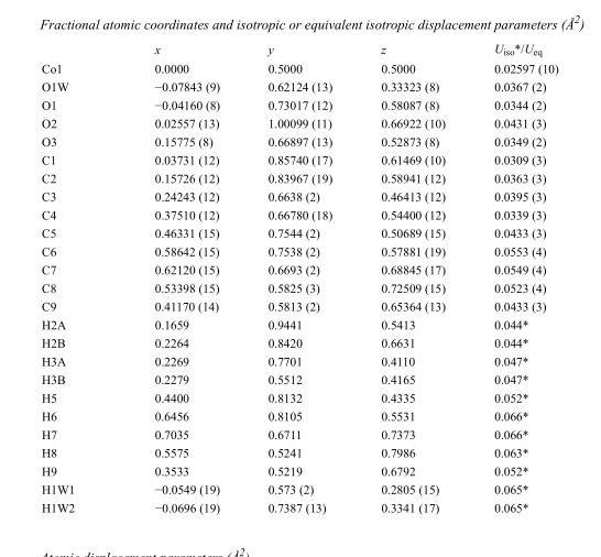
<table><thead><tr><td></td><td>x</td><td>y</td><td>z</td><td>U<sub>iso</sub>*/U<sub>eq</sub></td></tr></thead><tbody><tr><td>Co1</td><td>0.0000</td><td>0.5000</td><td>0.5000</td><td>0.02597 (10)</td></tr><tr><td>O1W</td><td>−0.07843 (9)</td><td>0.62124 (13)</td><td>0.33323 (8)</td><td>0.0367 (2)</td></tr><tr><td>O1</td><td>−0.04160 (8)</td><td>0.73017 (12)</td><td>0.58087 (8)</td><td>0.0344 (2)</td></tr><tr><td>O2</td><td>0.02557 (13)</td><td>1.00099 (11)</td><td>0.66922 (10)</td><td>0.0431 (3)</td></tr><tr><td>O3</td><td>0.15775 (8)</td><td>0.66897 (13)</td><td>0.52873 (8)</td><td>0.0349 (2)</td></tr><tr><td>C1</td><td>0.03731 (12)</td><td>0.85740 (17)</td><td>0.61469 (10)</td><td>0.0309 (3)</td></tr><tr><td>C2</td><td>0.15726 (12)</td><td>0.83967 (19)</td><td>0.58941 (12)</td><td>0.0363 (3)</td></tr><tr><td>C3</td><td>0.24243 (12)</td><td>0.6638 (2)</td><td>0.46413 (12)</td><td>0.0395 (3)</td></tr><tr><td>C4</td><td>0.37510 (12)</td><td>0.66780 (18)</td><td>0.54400 (12)</td><td>0.0339 (3)</td></tr><tr><td>C5</td><td>0.46331 (15)</td><td>0.7544 (2)</td><td>0.50689 (15)</td><td>0.0433 (3)</td></tr><tr><td>C6</td><td>0.58642 (15)</td><td>0.7538 (2)</td><td>0.57881 (19)</td><td>0.0553 (4)</td></tr><tr><td>C7</td><td>0.62120 (15)</td><td>0.6693 (2)</td><td>0.68845 (17)</td><td>0.0549 (4)</td></tr><tr><td>C8</td><td>0.53398 (15)</td><td>0.5825 (3)</td><td>0.72509 (15)</td><td>0.0523 (4)</td></tr><tr><td>C9</td><td>0.41170 (14)</td><td>0.5813 (2)</td><td>0.65364 (13)</td><td>0.0433 (3)</td></tr><tr><td>H2A</td><td>0.1659</td><td>0.9441</td><td>0.5413</td><td>0.044*</td></tr><tr><td>H2B</td><td>0.2264</td><td>0.8420</td><td>0.6631</td><td>0.044*</td></tr><tr><td>H3A</td><td>0.2269</td><td>0.7701</td><td>0.4110</td><td>0.047*</td></tr><tr><td>H3B</td><td>0.2279</td><td>0.5512</td><td>0.4165</td><td>0.047*</td></tr><tr><td>H5</td><td>0.4400</td><td>0.8132</td><td>0.4335</td><td>0.052*</td></tr><tr><td>H6</td><td>0.6456</td><td>0.8105</td><td>0.5531</td><td>0.066*</td></tr><tr><td>H7</td><td>0.7035</td><td>0.6711</td><td>0.7373</td><td>0.066*</td></tr><tr><td>H8</td><td>0.5575</td><td>0.5241</td><td>0.7986</td><td>0.063*</td></tr><tr><td>H9</td><td>0.3533</td><td>0.5219</td><td>0.6792</td><td>0.052*</td></tr><tr><td>H1W1</td><td>−0.0549 (19)</td><td>0.573 (2)</td><td>0.2805 (15)</td><td>0.065*</td></tr><tr><td>H1W2</td><td>−0.0696 (19)</td><td>0.7387 (13)</td><td>0.3341 (17)</td><td>0.065*</td></tr></tbody></table>